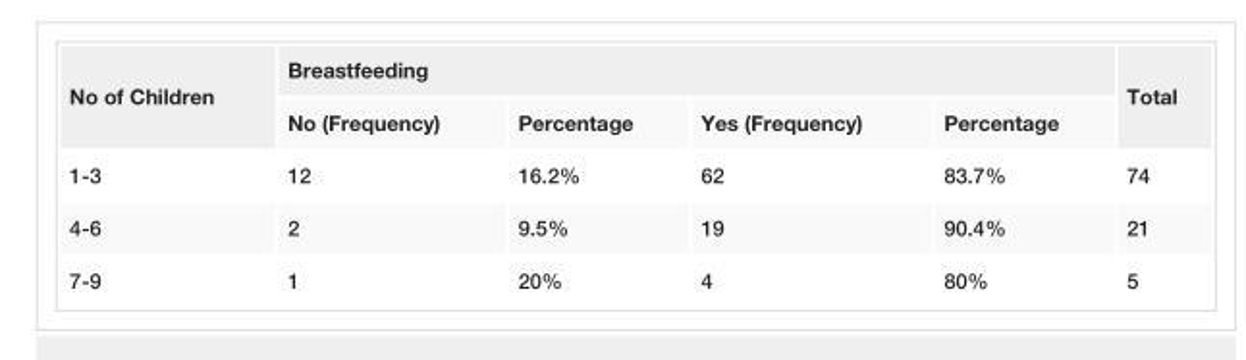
<table><tbody><tr><td rowspan="2">No of Children</td><td colspan="4">Breastfeeding</td><td rowspan="2">Total</td></tr><tr><td>No (Frequency)</td><td>Percentage</td><td>Yes (Frequency)</td><td>Percentage</td></tr><tr><td>1-3</td><td>12</td><td>16.2%</td><td>62</td><td>83.7%</td><td>74</td></tr><tr><td>4-6</td><td>2</td><td>9.5%</td><td>19</td><td>90.4%</td><td>21</td></tr><tr><td>7-9</td><td>1</td><td>20%</td><td>4</td><td>80%</td><td>5</td></tr></tbody></table>